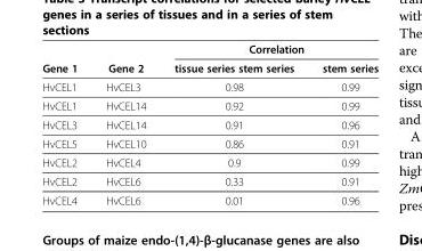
<table><thead><tr><td rowspan="2">Gene 1</td><td rowspan="2">Gene 2</td><td colspan="2">Correlation</td></tr><tr><td>tissue series stem series</td><td>stem series</td></tr></thead><tbody><tr><td>HvCEL1</td><td>HvCEL3</td><td>0.98</td><td>0.99</td></tr><tr><td>HvCEL1</td><td>HvCEL14</td><td>0.92</td><td>0.99</td></tr><tr><td>HvCEL3</td><td>HvCEL14</td><td>0.91</td><td>0.96</td></tr><tr><td>HvCEL5</td><td>HvCEL10</td><td>0.86</td><td>0.91</td></tr><tr><td>HvCEL2</td><td>HvCEL4</td><td>0.9</td><td>0.99</td></tr><tr><td>HvCEL2</td><td>HvCEL6</td><td>0.33</td><td>0.91</td></tr><tr><td>HvCEL4</td><td>HvCEL6</td><td>0.01</td><td>0.96</td></tr></tbody></table>